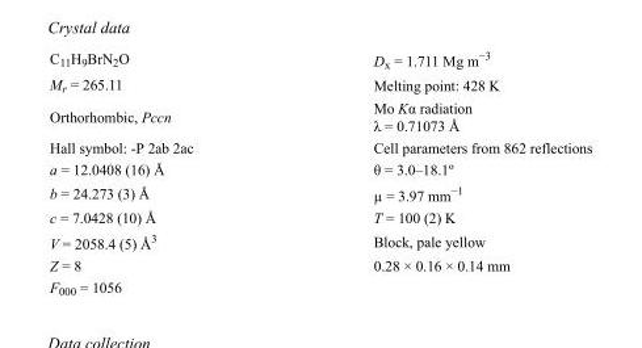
<table><tbody><tr><td>C<sub>11</sub>H<sub>9</sub>BrN<sub>2</sub>O</td><td>D<sub>x</sub> = 1.711 Mg m<sup>−3</sup></td></tr><tr><td>M<sub>r</sub> = 265.11</td><td>Melting point: 428 K</td></tr><tr><td>Orthorhombic, Pccn</td><td>Mo Kα radiation λ = 0.71073 Å</td></tr><tr><td>Hall symbol: -P 2ab 2ac</td><td>Cell parameters from 862 reflections</td></tr><tr><td>a = 12.0408 (16) Å</td><td>θ = 3.0–18.1º</td></tr><tr><td>b = 24.273 (3) Å</td><td>µ = 3.97 mm<sup>−1</sup></td></tr><tr><td>c = 7.0428 (10) Å</td><td>T = 100 (2) K</td></tr><tr><td>V = 2058.4 (5) Å<sup>3</sup></td><td>Block, pale yellow</td></tr><tr><td>Z = 8</td><td>0.28 × 0.16 × 0.14 mm</td></tr><tr><td>F<sub>000</sub> = 1056</td><td></td></tr></tbody></table>